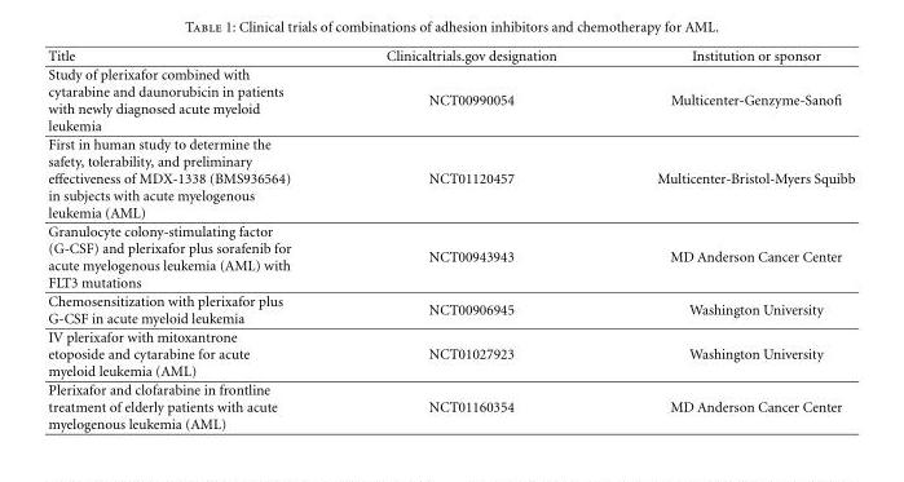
<table><tbody><tr><td>Title</td><td>Clinicaltrials.gov designation</td><td>Institution or sponsor</td></tr><tr><td>Study of plerixafor combined with cytarabine and daunorubicin in patients with newly diagnosed acute myeloid leukemia</td><td>NCT00990054</td><td>Multicenter-Genzyme-Sanofi</td></tr><tr><td>First in human study to determine the safety, tolerability, and preliminary effectiveness of MDX-1338 (BMS936564) in subjects with acute myelogenous leukemia (AML)</td><td>NCT01120457</td><td>Multicenter-Bristol-Myers Squibb</td></tr><tr><td>Granulocyte colony-stimulating factor (G-CSF) and plerixafor plus sorafenib for acute myelogenous leukemia (AML) with FLT3 mutations</td><td>NCT00943943</td><td>MD Anderson Cancer Center</td></tr><tr><td>Chemosensitization with plerixafor plus G-CSF in acute myeloid leukemia</td><td>NCT00906945</td><td>Washington University</td></tr><tr><td>IV plerixafor with mitoxantrone etoposide and cytarabine for acute myeloid leukemia (AML)</td><td>NCT01027923</td><td>Washington University</td></tr><tr><td>Plerixafor and clofarabine in frontline treatment of elderly patients with acute myelogenous leukemia (AML)</td><td>NCT01160354</td><td>MD Anderson Cancer Center</td></tr></tbody></table>